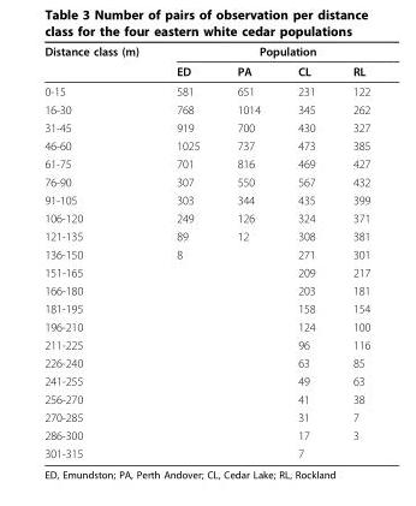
<table><thead><tr><td rowspan="2">Distance class (m)</td><td colspan="4">Population</td></tr><tr><td>ED</td><td>PA</td><td>CL</td><td>RL</td></tr></thead><tbody><tr><td>0-15</td><td>581</td><td>651</td><td>231</td><td>122</td></tr><tr><td>16-30</td><td>768</td><td>1014</td><td>345</td><td>262</td></tr><tr><td>31-45</td><td>919</td><td>700</td><td>430</td><td>327</td></tr><tr><td>46-60</td><td>1025</td><td>737</td><td>473</td><td>385</td></tr><tr><td>61-75</td><td>701</td><td>816</td><td>469</td><td>427</td></tr><tr><td>76-90</td><td>307</td><td>550</td><td>567</td><td>432</td></tr><tr><td>91-105</td><td>303</td><td>344</td><td>435</td><td>399</td></tr><tr><td>106-120</td><td>249</td><td>126</td><td>324</td><td>371</td></tr><tr><td>121-135</td><td>89</td><td>12</td><td>308</td><td>381</td></tr><tr><td>136-150</td><td>8</td><td></td><td>271</td><td>301</td></tr><tr><td>151-165</td><td></td><td></td><td>209</td><td>217</td></tr><tr><td>166-180</td><td></td><td></td><td>203</td><td>181</td></tr><tr><td>181-195</td><td></td><td></td><td>158</td><td>154</td></tr><tr><td>196-210</td><td></td><td></td><td>124</td><td>100</td></tr><tr><td>211-225</td><td></td><td></td><td>96</td><td>116</td></tr><tr><td>226-240</td><td></td><td></td><td>63</td><td>85</td></tr><tr><td>241-255</td><td></td><td></td><td>49</td><td>63</td></tr><tr><td>256-270</td><td></td><td></td><td>41</td><td>38</td></tr><tr><td>270-285</td><td></td><td></td><td>31</td><td>7</td></tr><tr><td>286-300</td><td></td><td></td><td>17</td><td>3</td></tr><tr><td>301-315</td><td></td><td></td><td>7</td><td></td></tr></tbody></table>